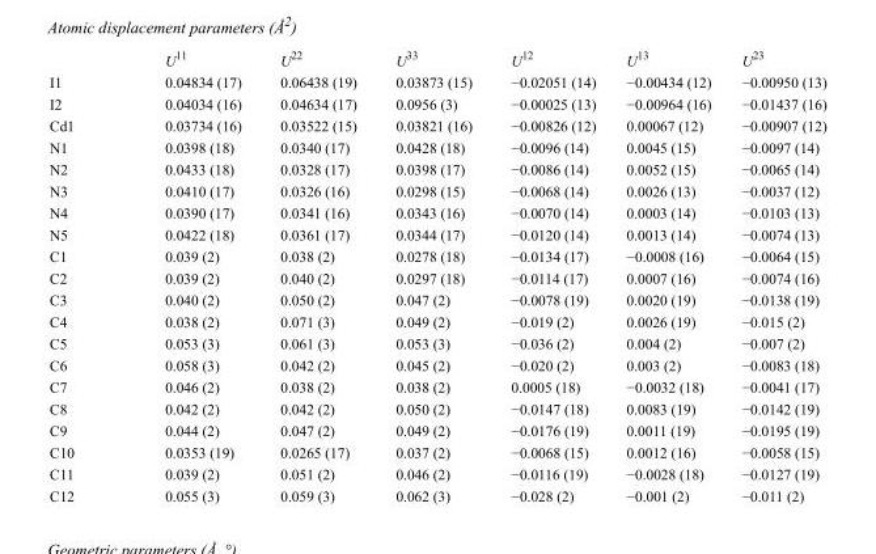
<table><thead><tr><td></td><td>U<sup>11</sup></td><td>U<sup>22</sup></td><td>U<sup>33</sup></td><td>U<sup>12</sup></td><td>U<sup>13</sup></td><td>U<sup>23</sup></td></tr></thead><tbody><tr><td>I1</td><td>0.04834 (17)</td><td>0.06438 (19)</td><td>0.03873 (15)</td><td>−0.02051 (14)</td><td>−0.00434 (12)</td><td>−0.00950 (13)</td></tr><tr><td>I2</td><td>0.04034 (16)</td><td>0.04634 (17)</td><td>0.0956 (3)</td><td>−0.00025 (13)</td><td>−0.00964 (16)</td><td>−0.01437 (16)</td></tr><tr><td>Cd1</td><td>0.03734 (16)</td><td>0.03522 (15)</td><td>0.03821 (16)</td><td>−0.00826 (12)</td><td>0.00067 (12)</td><td>−0.00907 (12)</td></tr><tr><td>N1</td><td>0.0398 (18)</td><td>0.0340 (17)</td><td>0.0428 (18)</td><td>−0.0096 (14)</td><td>0.0045 (15)</td><td>−0.0097 (14)</td></tr><tr><td>N2</td><td>0.0433 (18)</td><td>0.0328 (17)</td><td>0.0398 (17)</td><td>−0.0086 (14)</td><td>0.0052 (15)</td><td>−0.0065 (14)</td></tr><tr><td>N3</td><td>0.0410 (17)</td><td>0.0326 (16)</td><td>0.0298 (15)</td><td>−0.0068 (14)</td><td>0.0026 (13)</td><td>−0.0037 (12)</td></tr><tr><td>N4</td><td>0.0390 (17)</td><td>0.0341 (16)</td><td>0.0343 (16)</td><td>−0.0070 (14)</td><td>0.0003 (14)</td><td>−0.0103 (13)</td></tr><tr><td>N5</td><td>0.0422 (18)</td><td>0.0361 (17)</td><td>0.0344 (17)</td><td>−0.0120 (14)</td><td>0.0013 (14)</td><td>−0.0074 (13)</td></tr><tr><td>C1</td><td>0.039 (2)</td><td>0.038 (2)</td><td>0.0278 (18)</td><td>−0.0134 (17)</td><td>−0.0008 (16)</td><td>−0.0064 (15)</td></tr><tr><td>C2</td><td>0.039 (2)</td><td>0.040 (2)</td><td>0.0297 (18)</td><td>−0.0114 (17)</td><td>0.0007 (16)</td><td>−0.0074 (16)</td></tr><tr><td>C3</td><td>0.040 (2)</td><td>0.050 (2)</td><td>0.047 (2)</td><td>−0.0078 (19)</td><td>0.0020 (19)</td><td>−0.0138 (19)</td></tr><tr><td>C4</td><td>0.038 (2)</td><td>0.071 (3)</td><td>0.049 (2)</td><td>−0.019 (2)</td><td>0.0026 (19)</td><td>−0.015 (2)</td></tr><tr><td>C5</td><td>0.053 (3)</td><td>0.061 (3)</td><td>0.053 (3)</td><td>−0.036 (2)</td><td>0.004 (2)</td><td>−0.007 (2)</td></tr><tr><td>C6</td><td>0.058 (3)</td><td>0.042 (2)</td><td>0.045 (2)</td><td>−0.020 (2)</td><td>0.003 (2)</td><td>−0.0083 (18)</td></tr><tr><td>C7</td><td>0.046 (2)</td><td>0.038 (2)</td><td>0.038 (2)</td><td>0.0005 (18)</td><td>−0.0032 (18)</td><td>−0.0041 (17)</td></tr><tr><td>C8</td><td>0.042 (2)</td><td>0.042 (2)</td><td>0.050 (2)</td><td>−0.0147 (18)</td><td>0.0083 (19)</td><td>−0.0142 (19)</td></tr><tr><td>C9</td><td>0.044 (2)</td><td>0.047 (2)</td><td>0.049 (2)</td><td>−0.0176 (19)</td><td>0.0011 (19)</td><td>−0.0195 (19)</td></tr><tr><td>C10</td><td>0.0353 (19)</td><td>0.0265 (17)</td><td>0.037 (2)</td><td>−0.0068 (15)</td><td>0.0012 (16)</td><td>−0.0058 (15)</td></tr><tr><td>C11</td><td>0.039 (2)</td><td>0.051 (2)</td><td>0.046 (2)</td><td>−0.0116 (19)</td><td>−0.0028 (18)</td><td>−0.0127 (19)</td></tr><tr><td>C12</td><td>0.055 (3)</td><td>0.059 (3)</td><td>0.062 (3)</td><td>−0.028 (2)</td><td>−0.001 (2)</td><td>−0.011 (2)</td></tr></tbody></table>